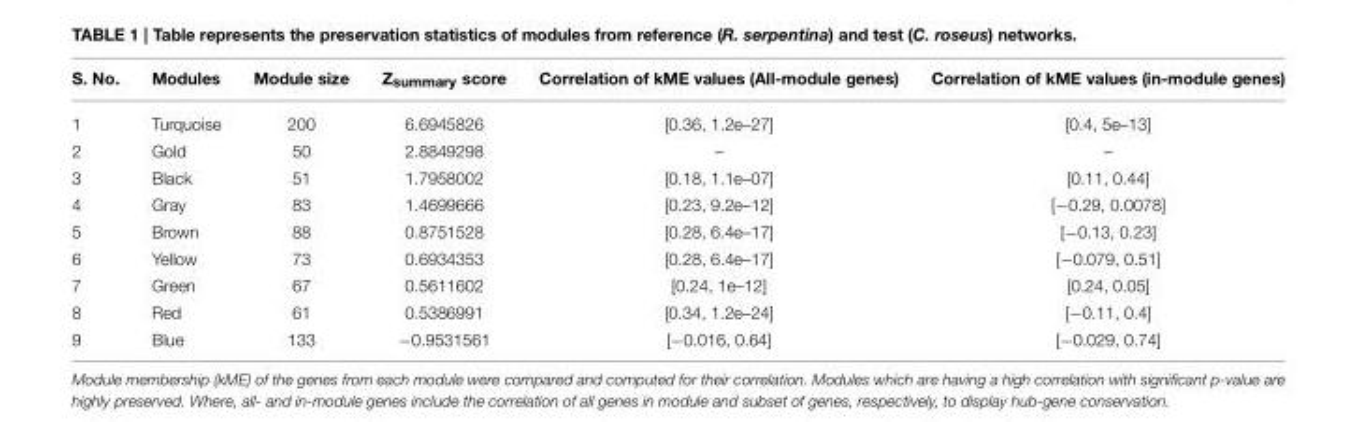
<table><thead><tr><td>S. No.</td><td>Modules</td><td>Module size</td><td>Z<sub>summary</sub> score</td><td>Correlation of kME values (All-module genes)</td><td>Correlation of kME values (in-module genes)</td></tr></thead><tbody><tr><td>1</td><td>Turquoise</td><td>200</td><td>6.6945826</td><td>[0.36, 1.2e–27]</td><td>[0.4, 5e–13]</td></tr><tr><td>2</td><td>Gold</td><td>50</td><td>2.8849298</td><td>–</td><td>–</td></tr><tr><td>3</td><td>Black</td><td>51</td><td>1.7958002</td><td>[0.18, 1.1e–07]</td><td>[0.11, 0.44]</td></tr><tr><td>4</td><td>Gray</td><td>83</td><td>1.4699666</td><td>[0.23, 9.2e–12]</td><td>[−0.29, 0.0078]</td></tr><tr><td>5</td><td>Brown</td><td>88</td><td>0.8751528</td><td>[0.28, 6.4e–17]</td><td>[−0.13, 0.23]</td></tr><tr><td>6</td><td>Yellow</td><td>73</td><td>0.6934353</td><td>[0.28, 6.4e–17]</td><td>[−0.079, 0.51]</td></tr><tr><td>7</td><td>Green</td><td>67</td><td>0.5611602</td><td>[0.24, 1e–12]</td><td>[0.24, 0.05]</td></tr><tr><td>8</td><td>Red</td><td>61</td><td>0.5386991</td><td>[0.34, 1.2e–24]</td><td>[−0.11, 0.4]</td></tr><tr><td>9</td><td>Blue</td><td>133</td><td>−0.9531561</td><td>[−0.016, 0.64]</td><td>[−0.029, 0.74]</td></tr></tbody></table>